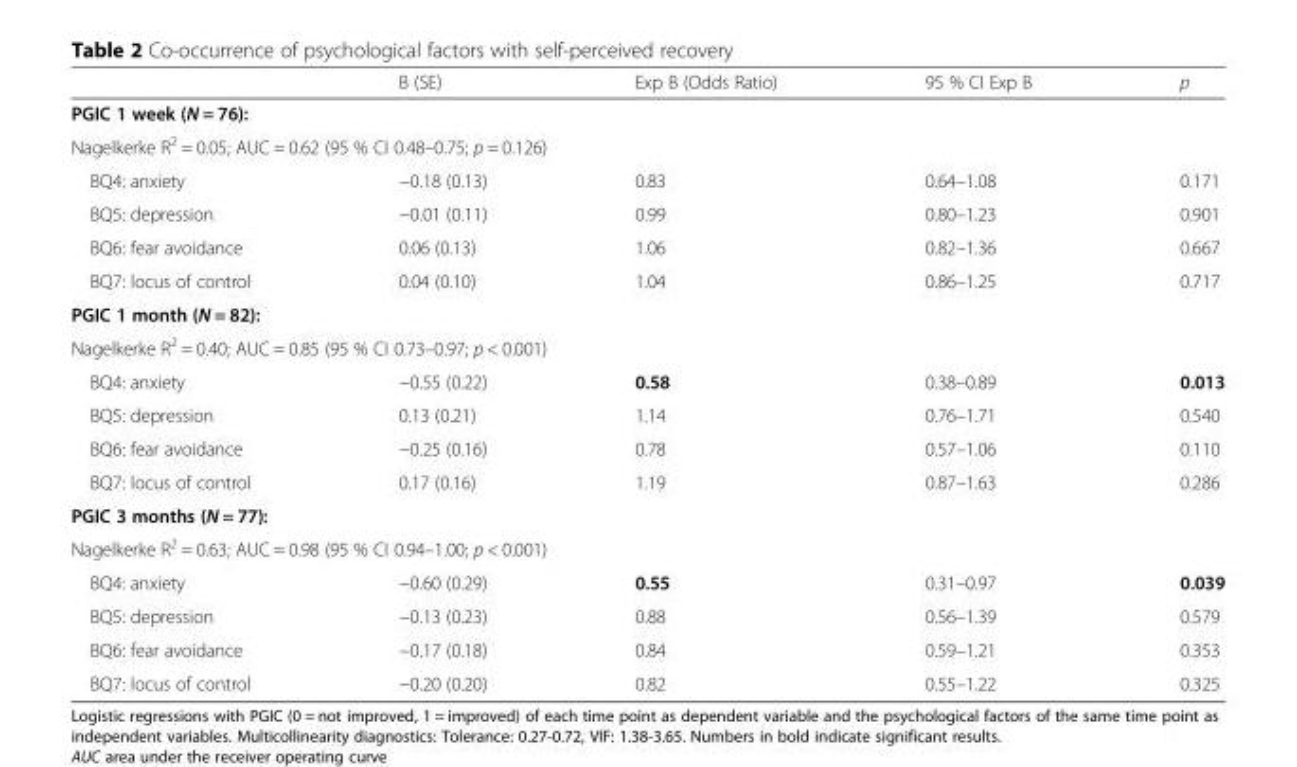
<table><thead><tr><td></td><td>B (SE)</td><td>Exp B (Odds Ratio)</td><td>95 % CI Exp B</td><td>p</td></tr></thead><tbody><tr><td colspan="5">PGIC 1 week (N = 76):</td></tr><tr><td colspan="5">Nagelkerke R<sup>2</sup> = 0.05; AUC = 0.62 (95 % CI 0.48–0.75; p = 0.126)</td></tr><tr><td>BQ4: anxiety</td><td>−0.18 (0.13)</td><td>0.83</td><td>0.64–1.08</td><td>0.171</td></tr><tr><td>BQ5: depression</td><td>−0.01 (0.11)</td><td>0.99</td><td>0.80–1.23</td><td>0.901</td></tr><tr><td>BQ6: fear avoidance</td><td>0.06 (0.13)</td><td>1.06</td><td>0.82–1.36</td><td>0.667</td></tr><tr><td>BQ7: locus of control</td><td>0.04 (0.10)</td><td>1.04</td><td>0.86–1.25</td><td>0.717</td></tr><tr><td colspan="5">PGIC 1 month (N = 82):</td></tr><tr><td colspan="5">Nagelkerke R<sup>2</sup> = 0.40; AUC = 0.85 (95 % CI 0.73–0.97; p &lt; 0.001)</td></tr><tr><td>BQ4: anxiety</td><td>−0.55 (0.22)</td><td>0.58</td><td>0.38–0.89</td><td>0.013</td></tr><tr><td>BQ5: depression</td><td>0.13 (0.21)</td><td>1.14</td><td>0.76–1.71</td><td>0.540</td></tr><tr><td>BQ6: fear avoidance</td><td>−0.25 (0.16)</td><td>0.78</td><td>0.57–1.06</td><td>0.110</td></tr><tr><td>BQ7: locus of control</td><td>0.17 (0.16)</td><td>1.19</td><td>0.87–1.63</td><td>0.286</td></tr><tr><td colspan="5">PGIC 3 months (N = 77):</td></tr><tr><td colspan="5">Nagelkerke R<sup>2</sup> = 0.63; AUC = 0.98 (95 % CI 0.94–1.00; p &lt; 0.001)</td></tr><tr><td>BQ4: anxiety</td><td>−0.60 (0.29)</td><td>0.55</td><td>0.31–0.97</td><td>0.039</td></tr><tr><td>BQ5: depression</td><td>−0.13 (0.23)</td><td>0.88</td><td>0.56–1.39</td><td>0.579</td></tr><tr><td>BQ6: fear avoidance</td><td>−0.17 (0.18)</td><td>0.84</td><td>0.59–1.21</td><td>0.353</td></tr><tr><td>BQ7: locus of control</td><td>−0.20 (0.20)</td><td>0.82</td><td>0.55–1.22</td><td>0.325</td></tr></tbody></table>